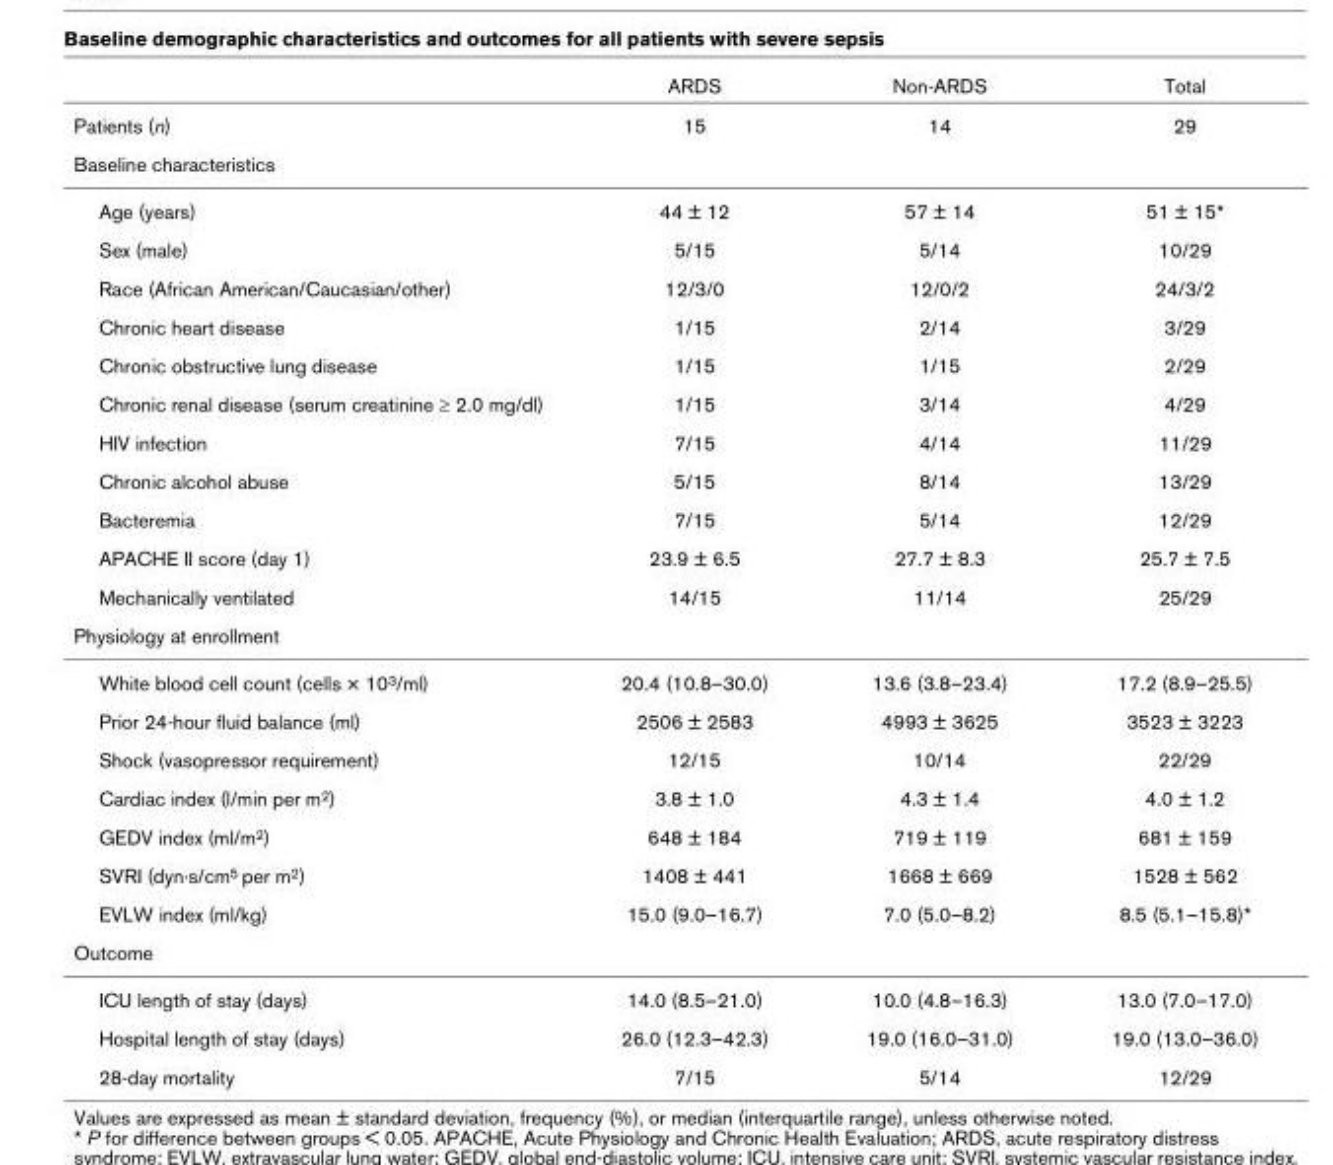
<table><thead><tr><td></td><td>ARDS</td><td>Non-ARDS</td><td>Total</td></tr></thead><tbody><tr><td>Patients (n)</td><td>15</td><td>14</td><td>29</td></tr><tr><td colspan="4">Baseline characteristics</td></tr><tr><td>Age (years)</td><td>44 ± 12</td><td>57 ± 14</td><td>51 ± 15*</td></tr><tr><td>Sex (male)</td><td>5/15</td><td>5/14</td><td>10/29</td></tr><tr><td>Race (African American/Caucasian/other)</td><td>12/3/0</td><td>12/0/2</td><td>24/3/2</td></tr><tr><td>Chronic heart disease</td><td>1/15</td><td>2/14</td><td>3/29</td></tr><tr><td>Chronic obstructive lung disease</td><td>1/15</td><td>1/15</td><td>2/29</td></tr><tr><td>Chronic renal disease (serum creatinine ≥ 2.0 mg/dl)</td><td>1/15</td><td>3/14</td><td>4/29</td></tr><tr><td>HIV infection</td><td>7/15</td><td>4/14</td><td>11/29</td></tr><tr><td>Chronic alcohol abuse</td><td>5/15</td><td>8/14</td><td>13/29</td></tr><tr><td>Bacteremia</td><td>7/15</td><td>5/14</td><td>12/29</td></tr><tr><td>APACHE II score (day 1)</td><td>23.9 ± 6.5</td><td>27.7 ± 8.3</td><td>25.7 ± 7.5</td></tr><tr><td>Mechanically ventilated</td><td>14/15</td><td>11/14</td><td>25/29</td></tr><tr><td colspan="4">Physiology at enrollment</td></tr><tr><td>White blood cell count (cells × 103/ml)</td><td>20.4 (10.8–30.0)</td><td>13.6 (3.8–23.4)</td><td>17.2 (8.9–25.5)</td></tr><tr><td>Prior 24-hour fluid balance (ml)</td><td>2506 ± 2583</td><td>4993 ± 3625</td><td>3523 ± 3223</td></tr><tr><td>Shock (vasopressor requirement)</td><td>12/15</td><td>10/14</td><td>22/29</td></tr><tr><td>Cardiac index (l/min per m2)</td><td>3.8 ± 1.0</td><td>4.3 ± 1.4</td><td>4.0 ± 1.2</td></tr><tr><td>GEDV index (ml/m2)</td><td>648 ± 184</td><td>719 ± 119</td><td>681 ± 159</td></tr><tr><td>SVRI (dyn·s/cm5 per m2)</td><td>1408 ± 441</td><td>1668 ± 669</td><td>1528 ± 562</td></tr><tr><td>EVLW index (ml/kg)</td><td>15.0 (9.0–16.7)</td><td>7.0 (5.0–8.2)</td><td>8.5 (5.1–15.8)*</td></tr><tr><td colspan="4">Outcome</td></tr><tr><td>ICU length of stay (days)</td><td>14.0 (8.5–21.0)</td><td>10.0 (4.8–16.3)</td><td>13.0 (7.0–17.0)</td></tr><tr><td>Hospital length of stay (days)</td><td>26.0 (12.3–42.3)</td><td>19.0 (16.0–31.0)</td><td>19.0 (13.0–36.0)</td></tr><tr><td>28-day mortality</td><td>7/15</td><td>5/14</td><td>12/29</td></tr></tbody></table>